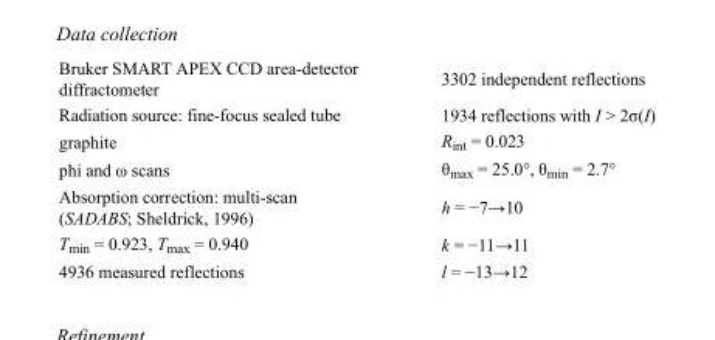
<table><tbody><tr><td>Bruker SMART APEX CCD area-detector diffractometer</td><td>3302 independent reflections</td></tr><tr><td>Radiation source: fine-focus sealed tube</td><td>1934 reflections with I &gt; 2σ(I)</td></tr><tr><td>graphite</td><td>R<sub>int</sub> = 0.023</td></tr><tr><td>phi and ω scans</td><td>θ<sub>max</sub> = 25.0°, θ<sub>min</sub> = 2.7°</td></tr><tr><td>Absorption correction: multi-scan (SADABS; Sheldrick, 1996)</td><td>h = −7→10</td></tr><tr><td>T<sub>min</sub> = 0.923, T<sub>max</sub> = 0.940</td><td>k = −11→11</td></tr><tr><td>4936 measured reflections</td><td>l = −13→12</td></tr></tbody></table>